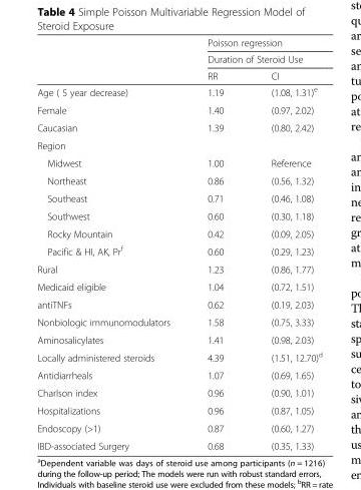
<table><thead><tr><td rowspan="3"></td><td rowspan="2" colspan="2">Poisson regression Duration of Steroid Use</td></tr><tr></tr><tr><td>RR</td><td>CI</td></tr></thead><tbody><tr><td>Age ( 5 year decrease)</td><td>1.19</td><td>(1.08, 1.31)<sup>e</sup></td></tr><tr><td>Female</td><td>1.40</td><td>(0.97, 2.02)</td></tr><tr><td>Caucasian</td><td>1.39</td><td>(0.80, 2.42)</td></tr><tr><td colspan="3">Region</td></tr><tr><td>Midwest</td><td>1.00</td><td>Reference</td></tr><tr><td>Northeast</td><td>0.86</td><td>(0.56, 1.32)</td></tr><tr><td>Southeast</td><td>0.71</td><td>(0.46, 1.08)</td></tr><tr><td>Southwest</td><td>0.60</td><td>(0.30, 1.18)</td></tr><tr><td>Rocky Mountain</td><td>0.42</td><td>(0.09, 2.05)</td></tr><tr><td>Pacific &amp; HI, AK, Pr<sup>f</sup></td><td>0.60</td><td>(0.29, 1.23)</td></tr><tr><td>Rural</td><td>1.23</td><td>(0.86, 1.77)</td></tr><tr><td>Medicaid eligible</td><td>1.04</td><td>(0.72, 1.51)</td></tr><tr><td>antiTNFs</td><td>0.62</td><td>(0.19, 2.03)</td></tr><tr><td>Nonbiologic immunomodulators</td><td>1.58</td><td>(0.75, 3.33)</td></tr><tr><td>Aminosalicylates</td><td>1.41</td><td>(0.98, 2.03)</td></tr><tr><td>Locally administered steroids</td><td>4.39</td><td>(1.51, 12.70)<sup>d</sup></td></tr><tr><td>Antidiarrheals</td><td>1.07</td><td>(0.69, 1.65)</td></tr><tr><td>Charlson index</td><td>0.96</td><td>(0.90, 1.01)</td></tr><tr><td>Hospitalizations</td><td>0.96</td><td>(0.87, 1.05)</td></tr><tr><td>Endoscopy (&gt;1)</td><td>0.87</td><td>(0.60, 1.27)</td></tr><tr><td>IBD-associated Surgery</td><td>0.68</td><td>(0.35, 1.33)</td></tr></tbody></table>